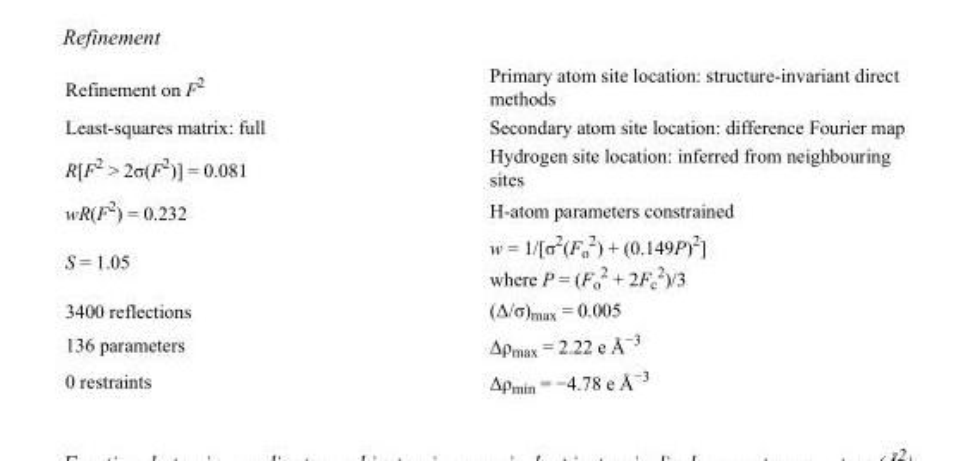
<table><tbody><tr><td>Refinement on F<sup>2</sup></td><td>Primary atom site location: structure-invariant direct methods</td></tr><tr><td>Least-squares matrix: full</td><td>Secondary atom site location: difference Fourier map</td></tr><tr><td>R[F<sup>2</sup> &gt; 2σ(F<sup>2</sup>)] = 0.081</td><td>Hydrogen site location: inferred from neighbouring sites</td></tr><tr><td>wR(F<sup>2</sup>) = 0.232</td><td>H-atom parameters constrained</td></tr><tr><td>S = 1.05</td><td>w = 1/[σ<sup>2</sup>(F<sub>o</sub> <sup>2</sup>) + (0.149P)<sup>2</sup>] where P = (F<sub>o</sub> <sup>2</sup> + 2F<sub>c</sub> <sup>2</sup>)/3</td></tr><tr><td>3400 reflections</td><td>(Δ/σ)<sub>max</sub> = 0.005</td></tr><tr><td>136 parameters</td><td>Δρ<sub>max</sub> = 2.22 e Å<sup>−3</sup></td></tr><tr><td>0 restraints</td><td>Δρ<sub>min</sub> = −4.78 e Å<sup>−3</sup></td></tr></tbody></table>